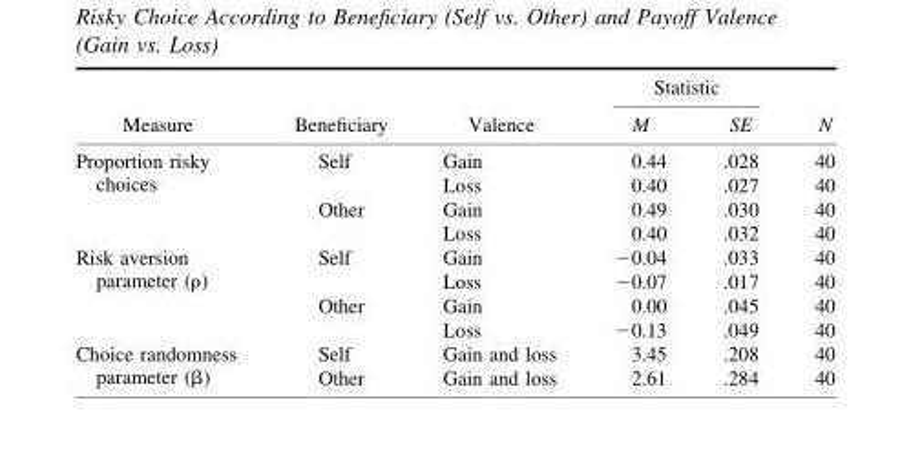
<table><thead><tr><td rowspan="2">Measure</td><td rowspan="2">Beneficiary</td><td rowspan="2">Valence</td><td colspan="2">Statistic</td><td rowspan="2">N</td></tr><tr><td>M</td><td>SE</td></tr></thead><tbody><tr><td rowspan="4">Proportion risky choices</td><td rowspan="2">Self</td><td>Gain</td><td>0.44</td><td>.028</td><td>40</td></tr><tr><td>Loss</td><td>0.40</td><td>.027</td><td>40</td></tr><tr><td rowspan="2">Other</td><td>Gain</td><td>0.49</td><td>.030</td><td>40</td></tr><tr><td>Loss</td><td>0.40</td><td>.032</td><td>40</td></tr><tr><td rowspan="4">Risk aversion parameter (ρ)</td><td rowspan="2">Self</td><td>Gain</td><td>−0.04</td><td>.033</td><td>40</td></tr><tr><td>Loss</td><td>−0.07</td><td>.017</td><td>40</td></tr><tr><td rowspan="2">Other</td><td>Gain</td><td>0.00</td><td>.045</td><td>40</td></tr><tr><td>Loss</td><td>−0.13</td><td>.049</td><td>40</td></tr><tr><td rowspan="2">Choice randomness parameter (β)</td><td>Self</td><td>Gain and loss</td><td>3.45</td><td>.208</td><td>40</td></tr><tr><td>Other</td><td>Gain and loss</td><td>2.61</td><td>.284</td><td>40</td></tr></tbody></table>